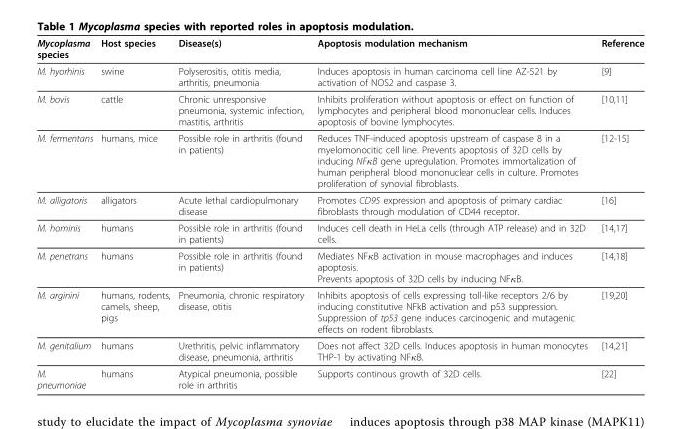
<table><thead><tr><td>Mycoplasma species</td><td>Host species</td><td>Disease(s)</td><td>Apoptosis modulation mechanism</td><td>Reference</td></tr></thead><tbody><tr><td>M. hyorhinis</td><td>swine</td><td>Polyserositis, otitis media, arthritis, pneumonia</td><td>Induces apoptosis in human carcinoma cell line AZ-521 by activation of NOS2 and caspase 3.</td><td>[9]</td></tr><tr><td>M. bovis</td><td>cattle</td><td>Chronic unresponsive pneumonia, systemic infection, mastitis, arthritis</td><td>Inhibits proliferation without apoptosis or effect on function of lymphocytes and peripheral blood mononuclear cells. Induces apoptosis of bovine lymphocytes.</td><td>[10,11]</td></tr><tr><td>M. fermentans</td><td>humans, mice</td><td>Possible role in arthritis (found in patients)</td><td>Reduces TNF-induced apoptosis upstream of caspase 8 in a myelomonocitic cell line. Prevents apoptosis of 32D cells by inducing NFκB gene upregulation. Promotes immortalization of human peripheral blood mononuclear cells in culture. Promotes proliferation of synovial fibroblasts.</td><td>[12-15]</td></tr><tr><td>M. alligatoris</td><td>alligators</td><td>Acute lethal cardiopulmonary disease</td><td>Promotes CD95 expression and apoptosis of primary cardiac fibroblasts through modulation of CD44 receptor.</td><td>[16]</td></tr><tr><td>M. hominis</td><td>humans</td><td>Possible role in arthritis (found in patients)</td><td>Induces cell death in HeLa cells (through ATP release) and in 32D cells.</td><td>[14,17]</td></tr><tr><td>M. penetrans</td><td>humans</td><td>Possible role in arthritis (found in patients)</td><td>Mediates NFκB activation in mouse macrophages and induces apoptosis. Prevents apoptosis of 32D cells by inducing NFκB.</td><td>[14,18]</td></tr><tr><td>M. arginini</td><td>humans, rodents, camels, sheep, pigs</td><td>Pneumonia, chronic respiratory disease, otitis</td><td>Inhibits apoptosis of cells expressing toll-like receptors 2/6 by inducing constitutive NFkB activation and p53 suppression. Suppression of tp53 gene induces carcinogenic and mutagenic effects on rodent fibroblasts.</td><td>[19,20]</td></tr><tr><td>M. genitalium</td><td>humans</td><td>Urethritis, pelvic inflammatory disease, pneumonia, arthritis</td><td>Does not affect 32D cells. Induces apoptosis in human monocytes THP-1 by activating NFκB.</td><td>[14,21]</td></tr><tr><td>M. pneumoniae</td><td>humans</td><td>Atypical pneumonia, possible role in arthritis</td><td>Supports continous growth of 32D cells.</td><td>[22]</td></tr></tbody></table>